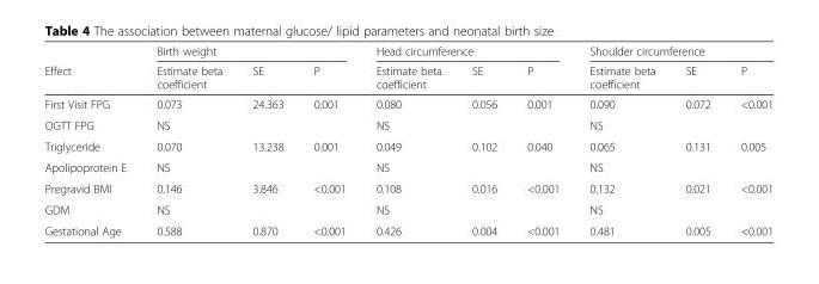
<table><thead><tr><td rowspan="2">Effect</td><td colspan="3">Birth weight</td><td colspan="3">Head circumference</td><td colspan="3">Shoulder circumference</td></tr><tr><td>Estimate beta coefficient</td><td>SE</td><td>P</td><td>Estimate beta coefficient</td><td>SE</td><td>P</td><td>Estimate beta coefficient</td><td>SE</td><td>P</td></tr></thead><tbody><tr><td>First Visit FPG</td><td>0.073</td><td>24.363</td><td>0.001</td><td>0.080</td><td>0.056</td><td>0.001</td><td>0.090</td><td>0.072</td><td>&lt;0.001</td></tr><tr><td>OGTT FPG</td><td>NS</td><td></td><td></td><td>NS</td><td></td><td></td><td>NS</td><td></td><td></td></tr><tr><td>Triglyceride</td><td>0.070</td><td>13.238</td><td>0.001</td><td>0.049</td><td>0.102</td><td>0.040</td><td>0.065</td><td>0.131</td><td>0.005</td></tr><tr><td>Apolipoprotein E</td><td>NS</td><td></td><td></td><td>NS</td><td></td><td></td><td>NS</td><td></td><td></td></tr><tr><td>Pregravid BMI</td><td>0.146</td><td>3.846</td><td>&lt;0.001</td><td>0.108</td><td>0.016</td><td>&lt;0.001</td><td>0.132</td><td>0.021</td><td>&lt;0.001</td></tr><tr><td>GDM</td><td>NS</td><td></td><td></td><td>NS</td><td></td><td></td><td>NS</td><td></td><td></td></tr><tr><td>Gestational Age</td><td>0.588</td><td>0.870</td><td>&lt;0.001</td><td>0.426</td><td>0.004</td><td>&lt;0.001</td><td>0.481</td><td>0.005</td><td>&lt;0.001</td></tr></tbody></table>